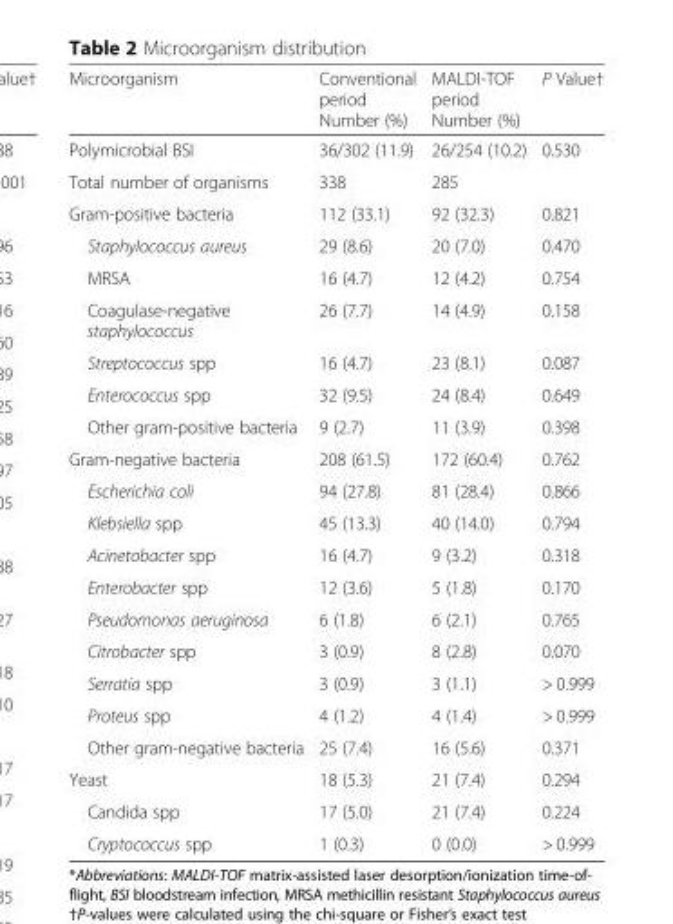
<table><thead><tr><td>Microorganism</td><td>Conventional period Number (%)</td><td>MALDI-TOF period Number (%)</td><td>P Value†</td></tr></thead><tbody><tr><td>Polymicrobial BSI</td><td>36/302 (11.9)</td><td>26/254 (10.2)</td><td>0.530</td></tr><tr><td>Total number of organisms</td><td>338</td><td>285</td><td></td></tr><tr><td>Gram-positive bacteria</td><td>112 (33.1)</td><td>92 (32.3)</td><td>0.821</td></tr><tr><td>Staphylococcus aureus</td><td>29 (8.6)</td><td>20 (7.0)</td><td>0.470</td></tr><tr><td>MRSA</td><td>16 (4.7)</td><td>12 (4.2)</td><td>0.754</td></tr><tr><td>Coagulase-negative staphylococcus</td><td>26 (7.7)</td><td>14 (4.9)</td><td>0.158</td></tr><tr><td>Streptococcus spp</td><td>16 (4.7)</td><td>23 (8.1)</td><td>0.087</td></tr><tr><td>Enterococcus spp</td><td>32 (9.5)</td><td>24 (8.4)</td><td>0.649</td></tr><tr><td>Other gram-positive bacteria</td><td>9 (2.7)</td><td>11 (3.9)</td><td>0.398</td></tr><tr><td>Gram-negative bacteria</td><td>208 (61.5)</td><td>172 (60.4)</td><td>0.762</td></tr><tr><td>Escherichia coli</td><td>94 (27.8)</td><td>81 (28.4)</td><td>0.866</td></tr><tr><td>Klebsiella spp</td><td>45 (13.3)</td><td>40 (14.0)</td><td>0.794</td></tr><tr><td>Acinetobacter spp</td><td>16 (4.7)</td><td>9 (3.2)</td><td>0.318</td></tr><tr><td>Enterobacter spp</td><td>12 (3.6)</td><td>5 (1.8)</td><td>0.170</td></tr><tr><td>Pseudomonas aeruginosa</td><td>6 (1.8)</td><td>6 (2.1)</td><td>0.765</td></tr><tr><td>Citrobacter spp</td><td>3 (0.9)</td><td>8 (2.8)</td><td>0.070</td></tr><tr><td>Serratia spp</td><td>3 (0.9)</td><td>3 (1.1)</td><td>&gt; 0.999</td></tr><tr><td>Proteus spp</td><td>4 (1.2)</td><td>4 (1.4)</td><td>&gt; 0.999</td></tr><tr><td>Other gram-negative bacteria</td><td>25 (7.4)</td><td>16 (5.6)</td><td>0.371</td></tr><tr><td>Yeast</td><td>18 (5.3)</td><td>21 (7.4)</td><td>0.294</td></tr><tr><td>Candida spp</td><td>17 (5.0)</td><td>21 (7.4)</td><td>0.224</td></tr><tr><td>Cryptococcus spp</td><td>1 (0.3)</td><td>0 (0.0)</td><td>&gt; 0.999</td></tr></tbody></table>